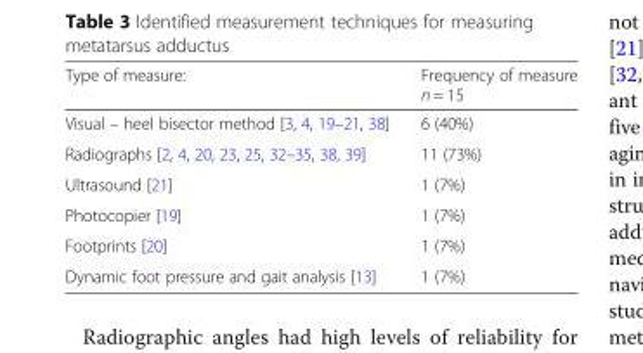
<table><thead><tr><td>Type of measure:</td><td>Frequency of measure n = 15</td></tr></thead><tbody><tr><td>Visual – heel bisector method [3, 4, 19–21, 38]</td><td>6 (40%)</td></tr><tr><td>Radiographs [2, 4, 20, 23, 25, 32–35, 38, 39]</td><td>11 (73%)</td></tr><tr><td>Ultrasound [21]</td><td>1 (7%)</td></tr><tr><td>Photocopier [19]</td><td>1 (7%)</td></tr><tr><td>Footprints [20]</td><td>1 (7%)</td></tr><tr><td>Dynamic foot pressure and gait analysis [13]</td><td>1 (7%)</td></tr></tbody></table>